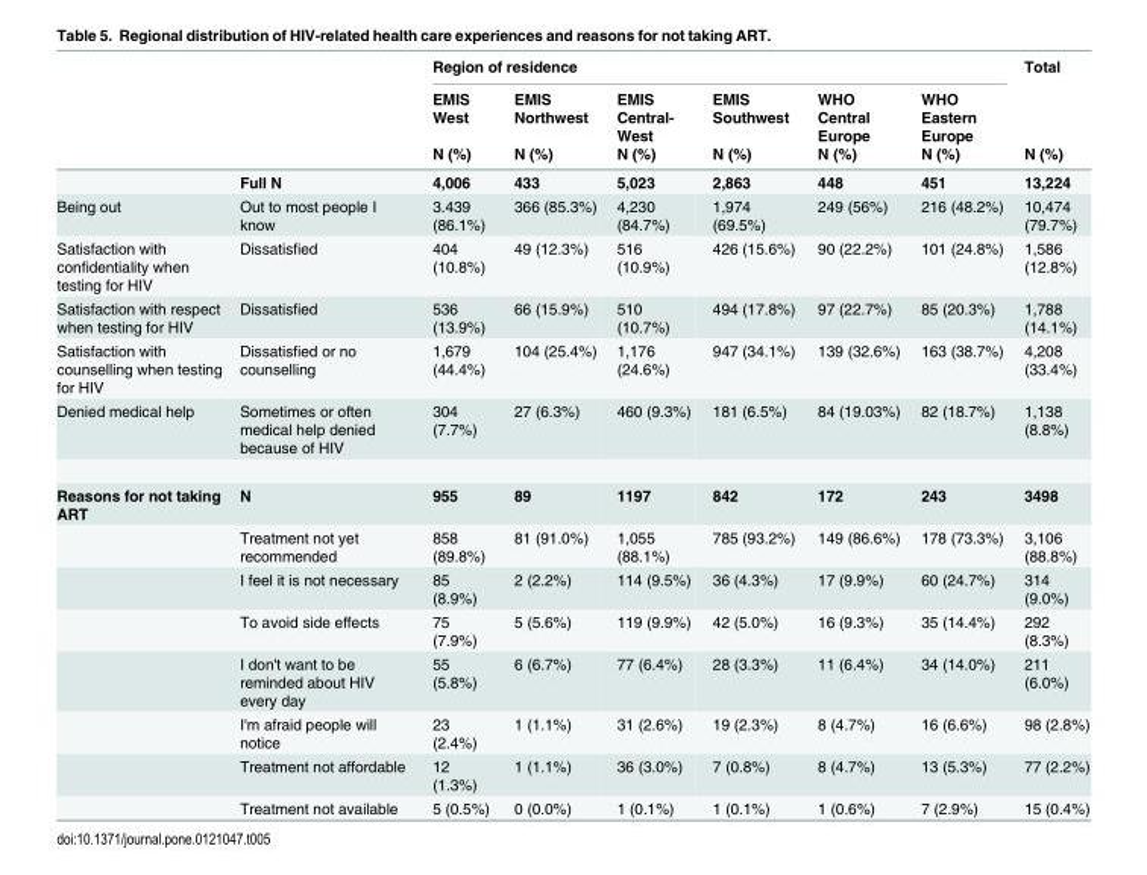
<table><thead><tr><td rowspan="3"></td><td rowspan="3"></td><td colspan="6">Region of residence</td><td rowspan="3">Total N (%)</td></tr><tr><td rowspan="2">EMIS West N (%)</td><td rowspan="2">EMIS Northwest N (%)</td><td rowspan="2">EMIS Central- West N (%)</td><td rowspan="2">EMIS Southwest N (%)</td><td rowspan="2">WHO Central Europe N (%)</td><td rowspan="2">WHO Eastern Europe N (%)</td></tr><tr></tr></thead><tbody><tr><td></td><td>Full N</td><td>4,006</td><td>433</td><td>5,023</td><td>2,863</td><td>448</td><td>451</td><td>13,224</td></tr><tr><td>Being out</td><td>Out to most people I know</td><td>3.439 (86.1%)</td><td>366 (85.3%)</td><td>4,230 (84.7%)</td><td>1,974 (69.5%)</td><td>249 (56%)</td><td>216 (48.2%)</td><td>10,474 (79.7%)</td></tr><tr><td>Satisfaction with confidentiality when testing for HIV</td><td>Dissatisfied</td><td>404 (10.8%)</td><td>49 (12.3%)</td><td>516 (10.9%)</td><td>426 (15.6%)</td><td>90 (22.2%)</td><td>101 (24.8%)</td><td>1,586 (12.8%)</td></tr><tr><td>Satisfaction with respect when testing for HIV</td><td>Dissatisfied</td><td>536 (13.9%)</td><td>66 (15.9%)</td><td>510 (10.7%)</td><td>494 (17.8%)</td><td>97 (22.7%)</td><td>85 (20.3%)</td><td>1,788 (14.1%)</td></tr><tr><td>Satisfaction with counselling when testing for HIV</td><td>Dissatisfied or no counselling</td><td>1,679 (44.4%)</td><td>104 (25.4%)</td><td>1,176 (24.6%)</td><td>947 (34.1%)</td><td>139 (32.6%)</td><td>163 (38.7%)</td><td>4,208 (33.4%)</td></tr><tr><td>Denied medical help</td><td>Sometimes or often medical help denied because of HIV</td><td>304 (7.7%)</td><td>27 (6.3%)</td><td>460 (9.3%)</td><td>181 (6.5%)</td><td>84 (19.03%)</td><td>82 (18.7%)</td><td>1,138 (8.8%)</td></tr><tr><td rowspan="8">Reasons for not taking ART</td><td>N</td><td>955</td><td>89</td><td>1197</td><td>842</td><td>172</td><td>243</td><td>3498</td></tr><tr><td>Treatment not yet recommended</td><td>858 (89.8%)</td><td>81 (91.0%)</td><td>1,055 (88.1%)</td><td>785 (93.2%)</td><td>149 (86.6%)</td><td>178 (73.3%)</td><td>3,106 (88.8%)</td></tr><tr><td>I feel it is not necessary</td><td>85 (8.9%)</td><td>2 (2.2%)</td><td>114 (9.5%)</td><td>36 (4.3%)</td><td>17 (9.9%)</td><td>60 (24.7%)</td><td>314 (9.0%)</td></tr><tr><td>To avoid side effects</td><td>75 (7.9%)</td><td>5 (5.6%)</td><td>119 (9.9%)</td><td>42 (5.0%)</td><td>16 (9.3%)</td><td>35 (14.4%)</td><td>292 (8.3%)</td></tr><tr><td>I don&#x27;t want to be reminded about HIV every day</td><td>55 (5.8%)</td><td>6 (6.7%)</td><td>77 (6.4%)</td><td>28 (3.3%)</td><td>11 (6.4%)</td><td>34 (14.0%)</td><td>211 (6.0%)</td></tr><tr><td>I&#x27;m afraid people will notice</td><td>23 (2.4%)</td><td>1 (1.1%)</td><td>31 (2.6%)</td><td>19 (2.3%)</td><td>8 (4.7%)</td><td>16 (6.6%)</td><td>98 (2.8%)</td></tr><tr><td>Treatment not affordable</td><td>12 (1.3%)</td><td>1 (1.1%)</td><td>36 (3.0%)</td><td>7 (0.8%)</td><td>8 (4.7%)</td><td>13 (5.3%)</td><td>77 (2.2%)</td></tr><tr><td>Treatment not available</td><td>5 (0.5%)</td><td>0 (0.0%)</td><td>1 (0.1%)</td><td>1 (0.1%)</td><td>1 (0.6%)</td><td>7 (2.9%)</td><td>15 (0.4%)</td></tr></tbody></table>